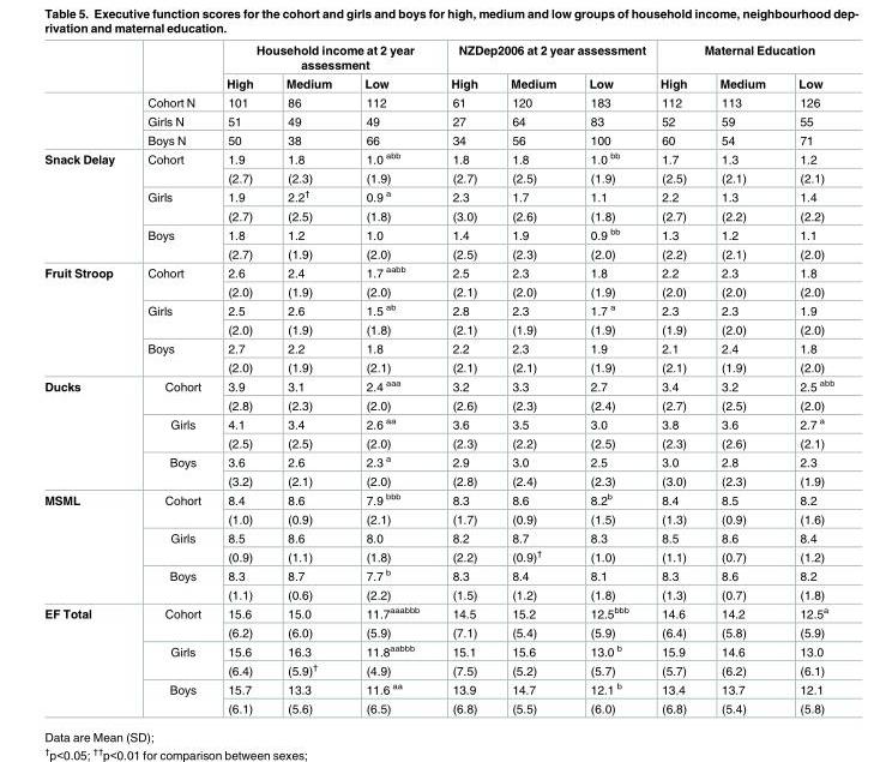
<table><thead><tr><td rowspan="2"></td><td rowspan="2"></td><td colspan="3">Household income at 2 year assessment</td><td colspan="3">NZDep2006 at 2 year assessment</td><td colspan="3">Maternal Education</td></tr><tr><td>High</td><td>Medium</td><td>Low</td><td>High</td><td>Medium</td><td>Low</td><td>High</td><td>Medium</td><td>Low</td></tr></thead><tbody><tr><td rowspan="3"></td><td>Cohort N</td><td>101</td><td>86</td><td>112</td><td>61</td><td>120</td><td>183</td><td>112</td><td>113</td><td>126</td></tr><tr><td>Girls N</td><td>51</td><td>49</td><td>49</td><td>27</td><td>64</td><td>83</td><td>52</td><td>59</td><td>55</td></tr><tr><td>Boys N</td><td>50</td><td>38</td><td>66</td><td>34</td><td>56</td><td>100</td><td>60</td><td>54</td><td>71</td></tr><tr><td rowspan="6">Snack Delay</td><td rowspan="2">Cohort</td><td>1.9</td><td>1.8</td><td>1.0 <sup>abb</sup></td><td>1.8</td><td>1.8</td><td>1.0 <sup>bb</sup></td><td>1.7</td><td>1.3</td><td>1.2</td></tr><tr><td>(2.7)</td><td>(2.3)</td><td>(1.9)</td><td>(2.7)</td><td>(2.5)</td><td>(1.9)</td><td>(2.5)</td><td>(2.1)</td><td>(2.1)</td></tr><tr><td rowspan="2">Girls</td><td>1.9</td><td>2.2<sup>†</sup></td><td>0.9 <sup>a</sup></td><td>2.3</td><td>1.7</td><td>1.1</td><td>2.2</td><td>1.3</td><td>1.4</td></tr><tr><td>(2.7)</td><td>(2.5)</td><td>(1.8)</td><td>(3.0)</td><td>(2.6)</td><td>(1.8)</td><td>(2.7)</td><td>(2.2)</td><td>(2.2)</td></tr><tr><td rowspan="2">Boys</td><td>1.8</td><td>1.2</td><td>1.0</td><td>1.4</td><td>1.9</td><td>0.9 <sup>bb</sup></td><td>1.3</td><td>1.2</td><td>1.1</td></tr><tr><td>(2.7)</td><td>(1.9)</td><td>(2.0)</td><td>(2.5)</td><td>(2.3)</td><td>(2.0)</td><td>(2.2)</td><td>(2.1)</td><td>(2.0)</td></tr><tr><td rowspan="6">Fruit Stroop</td><td rowspan="2">Cohort</td><td>2.6</td><td>2.4</td><td>1.7 <sup>aabb</sup></td><td>2.5</td><td>2.3</td><td>1.8</td><td>2.2</td><td>2.3</td><td>1.8</td></tr><tr><td>(2.0)</td><td>(1.9)</td><td>(2.0)</td><td>(2.1)</td><td>(2.0)</td><td>(1.9)</td><td>(2.0)</td><td>(2.0)</td><td>(2.0)</td></tr><tr><td rowspan="2">Girls</td><td>2.5</td><td>2.6</td><td>1.5 <sup>ab</sup></td><td>2.8</td><td>2.3</td><td>1.7 <sup>a</sup></td><td>2.3</td><td>2.3</td><td>1.9</td></tr><tr><td>(2.0)</td><td>(1.9)</td><td>(1.8)</td><td>(2.1)</td><td>(1.9)</td><td>(1.9)</td><td>(1.9)</td><td>(2.0)</td><td>(2.0)</td></tr><tr><td rowspan="2">Boys</td><td>2.7</td><td>2.2</td><td>1.8</td><td>2.2</td><td>2.3</td><td>1.9</td><td>2.1</td><td>2.4</td><td>1.8</td></tr><tr><td>(2.0)</td><td>(1.9)</td><td>(2.1)</td><td>(2.1)</td><td>(2.1)</td><td>(1.9)</td><td>(2.1)</td><td>(1.9)</td><td>(2.0)</td></tr><tr><td rowspan="6">Ducks</td><td rowspan="2">Cohort</td><td>3.9</td><td>3.1</td><td>2.4 <sup>aaa</sup></td><td>3.2</td><td>3.3</td><td>2.7</td><td>3.4</td><td>3.2</td><td>2.5 <sup>abb</sup></td></tr><tr><td>(2.8)</td><td>(2.3)</td><td>(2.0)</td><td>(2.6)</td><td>(2.3)</td><td>(2.4)</td><td>(2.7)</td><td>(2.5)</td><td>(2.0)</td></tr><tr><td rowspan="2">Girls</td><td>4.1</td><td>3.4</td><td>2.6 <sup>aa</sup></td><td>3.6</td><td>3.5</td><td>3.0</td><td>3.8</td><td>3.6</td><td>2.7 <sup>a</sup></td></tr><tr><td>(2.5)</td><td>(2.5)</td><td>(2.0)</td><td>(2.3)</td><td>(2.2)</td><td>(2.5)</td><td>(2.3)</td><td>(2.6)</td><td>(2.1)</td></tr><tr><td rowspan="2">Boys</td><td>3.6</td><td>2.6</td><td>2.3 <sup>a</sup></td><td>2.9</td><td>3.0</td><td>2.5</td><td>3.0</td><td>2.8</td><td>2.3</td></tr><tr><td>(3.2)</td><td>(2.1)</td><td>(2.0)</td><td>(2.8)</td><td>(2.4)</td><td>(2.3)</td><td>(3.0)</td><td>(2.3)</td><td>(1.9)</td></tr><tr><td rowspan="6">MSML</td><td rowspan="2">Cohort</td><td>8.4</td><td>8.6</td><td>7.9 <sup>bbb</sup></td><td>8.3</td><td>8.6</td><td>8.2<sup>b</sup></td><td>8.4</td><td>8.5</td><td>8.2</td></tr><tr><td>(1.0)</td><td>(0.9)</td><td>(2.1)</td><td>(1.7)</td><td>(0.9)</td><td>(1.5)</td><td>(1.3)</td><td>(0.9)</td><td>(1.6)</td></tr><tr><td rowspan="2">Girls</td><td>8.5</td><td>8.6</td><td>8.0</td><td>8.2</td><td>8.7</td><td>8.3</td><td>8.5</td><td>8.6</td><td>8.4</td></tr><tr><td>(0.9)</td><td>(1.1)</td><td>(1.8)</td><td>(2.2)</td><td>(0.9)<sup>†</sup></td><td>(1.0)</td><td>(1.1)</td><td>(0.7)</td><td>(1.2)</td></tr><tr><td rowspan="2">Boys</td><td>8.3</td><td>8.7</td><td>7.7 <sup>b</sup></td><td>8.3</td><td>8.4</td><td>8.1</td><td>8.3</td><td>8.6</td><td>8.2</td></tr><tr><td>(1.1)</td><td>(0.6)</td><td>(2.2)</td><td>(1.5)</td><td>(1.2)</td><td>(1.8)</td><td>(1.3)</td><td>(0.7)</td><td>(1.8)</td></tr><tr><td rowspan="6">EF Total</td><td rowspan="2">Cohort</td><td>15.6</td><td>15.0</td><td>11.7<sup>aaabbb</sup></td><td>14.5</td><td>15.2</td><td>12.5<sup>bbb</sup></td><td>14.6</td><td>14.2</td><td>12.5<sup>a</sup></td></tr><tr><td>(6.2)</td><td>(6.0)</td><td>(5.9)</td><td>(7.1)</td><td>(5.4)</td><td>(5.9)</td><td>(6.4)</td><td>(5.8)</td><td>(5.9)</td></tr><tr><td rowspan="2">Girls</td><td>15.6</td><td>16.3</td><td>11.8<sup>aabbb</sup></td><td>15.1</td><td>15.6</td><td>13.0 <sup>b</sup></td><td>15.9</td><td>14.6</td><td>13.0</td></tr><tr><td>(6.4)</td><td>(5.9)<sup>†</sup></td><td>(4.9)</td><td>(7.5)</td><td>(5.2)</td><td>(5.7)</td><td>(5.7)</td><td>(6.2)</td><td>(6.1)</td></tr><tr><td rowspan="2">Boys</td><td>15.7</td><td>13.3</td><td>11.6 <sup>aa</sup></td><td>13.9</td><td>14.7</td><td>12.1 <sup>b</sup></td><td>13.4</td><td>13.7</td><td>12.1</td></tr><tr><td>(6.1)</td><td>(5.6)</td><td>(6.5)</td><td>(6.8)</td><td>(5.5)</td><td>(6.0)</td><td>(6.8)</td><td>(5.4)</td><td>(5.8)</td></tr></tbody></table>